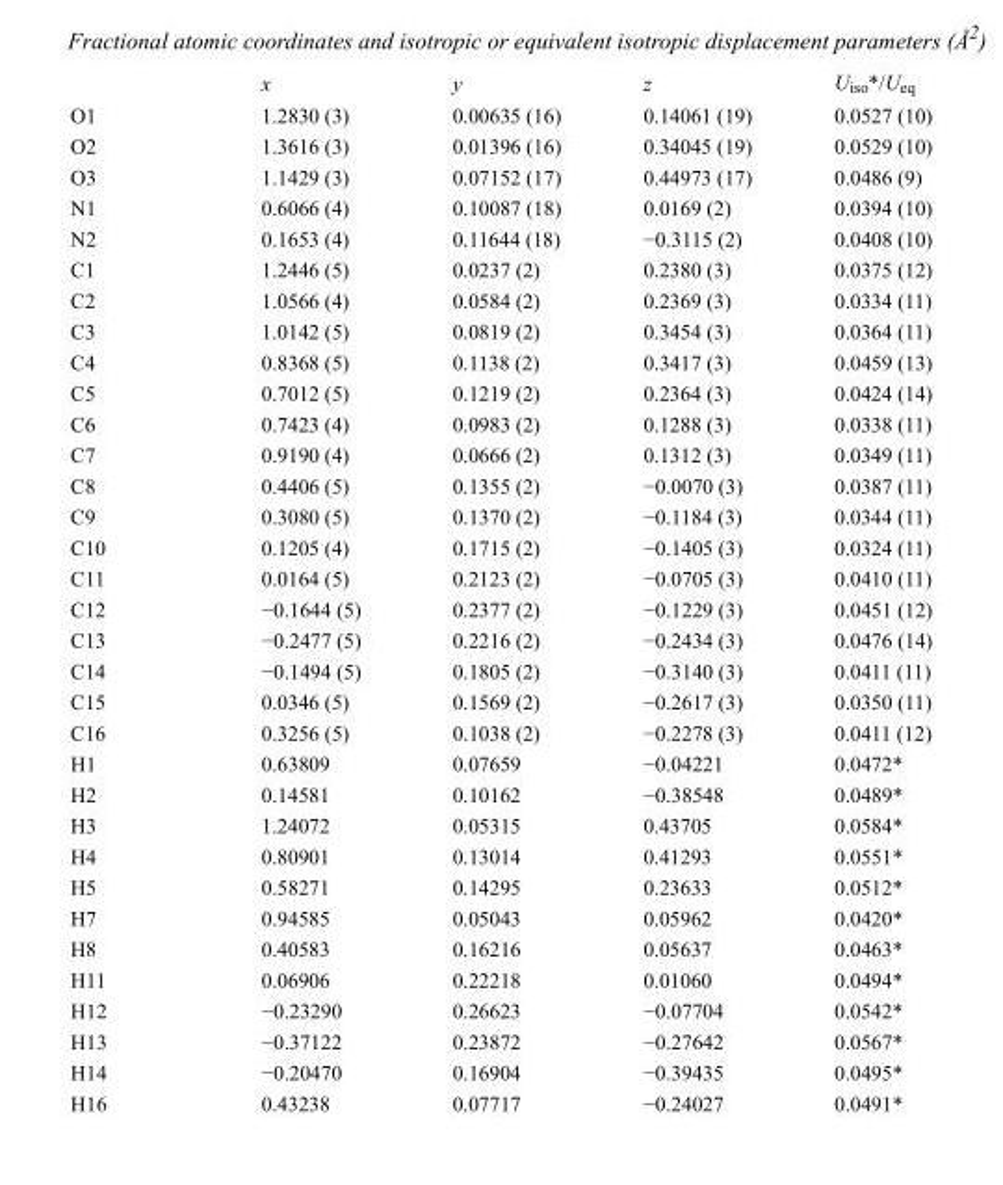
<table><thead><tr><td></td><td>x</td><td>y</td><td>z</td><td>U<sub>iso</sub>*/U<sub>eq</sub></td></tr></thead><tbody><tr><td>O1</td><td>1.2830 (3)</td><td>0.00635 (16)</td><td>0.14061 (19)</td><td>0.0527 (10)</td></tr><tr><td>O2</td><td>1.3616 (3)</td><td>0.01396 (16)</td><td>0.34045 (19)</td><td>0.0529 (10)</td></tr><tr><td>O3</td><td>1.1429 (3)</td><td>0.07152 (17)</td><td>0.44973 (17)</td><td>0.0486 (9)</td></tr><tr><td>N1</td><td>0.6066 (4)</td><td>0.10087 (18)</td><td>0.0169 (2)</td><td>0.0394 (10)</td></tr><tr><td>N2</td><td>0.1653 (4)</td><td>0.11644 (18)</td><td>−0.3115 (2)</td><td>0.0408 (10)</td></tr><tr><td>C1</td><td>1.2446 (5)</td><td>0.0237 (2)</td><td>0.2380 (3)</td><td>0.0375 (12)</td></tr><tr><td>C2</td><td>1.0566 (4)</td><td>0.0584 (2)</td><td>0.2369 (3)</td><td>0.0334 (11)</td></tr><tr><td>C3</td><td>1.0142 (5)</td><td>0.0819 (2)</td><td>0.3454 (3)</td><td>0.0364 (11)</td></tr><tr><td>C4</td><td>0.8368 (5)</td><td>0.1138 (2)</td><td>0.3417 (3)</td><td>0.0459 (13)</td></tr><tr><td>C5</td><td>0.7012 (5)</td><td>0.1219 (2)</td><td>0.2364 (3)</td><td>0.0424 (14)</td></tr><tr><td>C6</td><td>0.7423 (4)</td><td>0.0983 (2)</td><td>0.1288 (3)</td><td>0.0338 (11)</td></tr><tr><td>C7</td><td>0.9190 (4)</td><td>0.0666 (2)</td><td>0.1312 (3)</td><td>0.0349 (11)</td></tr><tr><td>C8</td><td>0.4406 (5)</td><td>0.1355 (2)</td><td>−0.0070 (3)</td><td>0.0387 (11)</td></tr><tr><td>C9</td><td>0.3080 (5)</td><td>0.1370 (2)</td><td>−0.1184 (3)</td><td>0.0344 (11)</td></tr><tr><td>C10</td><td>0.1205 (4)</td><td>0.1715 (2)</td><td>−0.1405 (3)</td><td>0.0324 (11)</td></tr><tr><td>C11</td><td>0.0164 (5)</td><td>0.2123 (2)</td><td>−0.0705 (3)</td><td>0.0410 (11)</td></tr><tr><td>C12</td><td>−0.1644 (5)</td><td>0.2377 (2)</td><td>−0.1229 (3)</td><td>0.0451 (12)</td></tr><tr><td>C13</td><td>−0.2477 (5)</td><td>0.2216 (2)</td><td>−0.2434 (3)</td><td>0.0476 (14)</td></tr><tr><td>C14</td><td>−0.1494 (5)</td><td>0.1805 (2)</td><td>−0.3140 (3)</td><td>0.0411 (11)</td></tr><tr><td>C15</td><td>0.0346 (5)</td><td>0.1569 (2)</td><td>−0.2617 (3)</td><td>0.0350 (11)</td></tr><tr><td>C16</td><td>0.3256 (5)</td><td>0.1038 (2)</td><td>−0.2278 (3)</td><td>0.0411 (12)</td></tr><tr><td>H1</td><td>0.63809</td><td>0.07659</td><td>−0.04221</td><td>0.0472*</td></tr><tr><td>H2</td><td>0.14581</td><td>0.10162</td><td>−0.38548</td><td>0.0489*</td></tr><tr><td>H3</td><td>1.24072</td><td>0.05315</td><td>0.43705</td><td>0.0584*</td></tr><tr><td>H4</td><td>0.80901</td><td>0.13014</td><td>0.41293</td><td>0.0551*</td></tr><tr><td>H5</td><td>0.58271</td><td>0.14295</td><td>0.23633</td><td>0.0512*</td></tr><tr><td>H7</td><td>0.94585</td><td>0.05043</td><td>0.05962</td><td>0.0420*</td></tr><tr><td>H8</td><td>0.40583</td><td>0.16216</td><td>0.05637</td><td>0.0463*</td></tr><tr><td>H11</td><td>0.06906</td><td>0.22218</td><td>0.01060</td><td>0.0494*</td></tr><tr><td>H12</td><td>−0.23290</td><td>0.26623</td><td>−0.07704</td><td>0.0542*</td></tr><tr><td>H13</td><td>−0.37122</td><td>0.23872</td><td>−0.27642</td><td>0.0567*</td></tr><tr><td>H14</td><td>−0.20470</td><td>0.16904</td><td>−0.39435</td><td>0.0495*</td></tr><tr><td>H16</td><td>0.43238</td><td>0.07717</td><td>−0.24027</td><td>0.0491*</td></tr></tbody></table>